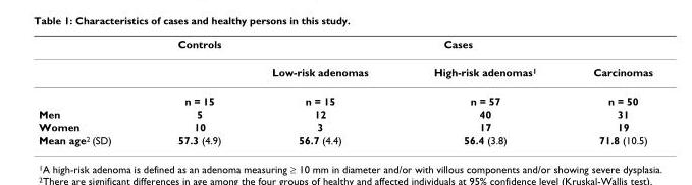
<table><thead><tr><td rowspan="2"></td><td rowspan="2">Controls</td><td colspan="3">Cases</td></tr><tr><td>Low-risk adenomas</td><td>High-risk adenomas<sup>1</sup></td><td>Carcinomas</td></tr></thead><tbody><tr><td></td><td>n = 15</td><td>n = 15</td><td>n = 57</td><td>n = 50</td></tr><tr><td>Men</td><td>5</td><td>12</td><td>40</td><td>31</td></tr><tr><td>Women</td><td>10</td><td>3</td><td>17</td><td>19</td></tr><tr><td>Mean age<sup>2</sup> (SD)</td><td>57.3 (4.9)</td><td>56.7 (4.4)</td><td>56.4 (3.8)</td><td>71.8 (10.5)</td></tr></tbody></table>